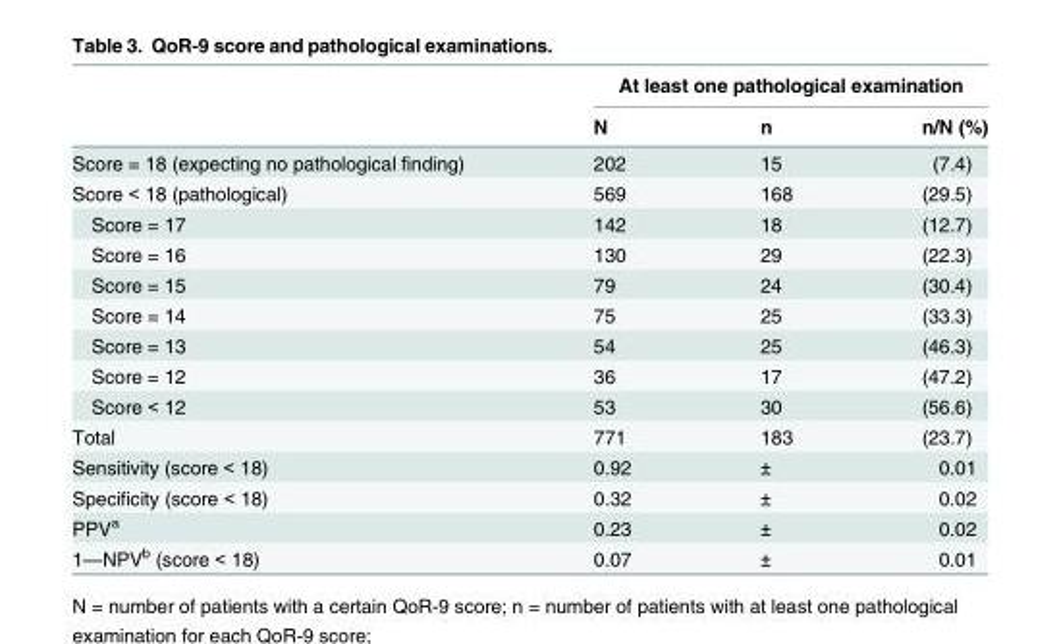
<table><thead><tr><td rowspan="2"></td><td colspan="3">At least one pathological examination</td></tr><tr><td>N</td><td>n</td><td>n/N (%)</td></tr></thead><tbody><tr><td>Score = 18 (expecting no pathological finding)</td><td>202</td><td>15</td><td>(7.4)</td></tr><tr><td>Score &lt; 18 (pathological)</td><td>569</td><td>168</td><td>(29.5)</td></tr><tr><td>Score = 17</td><td>142</td><td>18</td><td>(12.7)</td></tr><tr><td>Score = 16</td><td>130</td><td>29</td><td>(22.3)</td></tr><tr><td>Score = 15</td><td>79</td><td>24</td><td>(30.4)</td></tr><tr><td>Score = 14</td><td>75</td><td>25</td><td>(33.3)</td></tr><tr><td>Score = 13</td><td>54</td><td>25</td><td>(46.3)</td></tr><tr><td>Score = 12</td><td>36</td><td>17</td><td>(47.2)</td></tr><tr><td>Score &lt; 12</td><td>53</td><td>30</td><td>(56.6)</td></tr><tr><td>Total</td><td>771</td><td>183</td><td>(23.7)</td></tr><tr><td>Sensitivity (score &lt; 18)</td><td>0.92</td><td>±</td><td>0.01</td></tr><tr><td>Specificity (score &lt; 18)</td><td>0.32</td><td>±</td><td>0.02</td></tr><tr><td>PPV<sup>a</sup></td><td>0.23</td><td>±</td><td>0.02</td></tr><tr><td>1—NPV<sup>b</sup> (score &lt; 18)</td><td>0.07</td><td>±</td><td>0.01</td></tr></tbody></table>